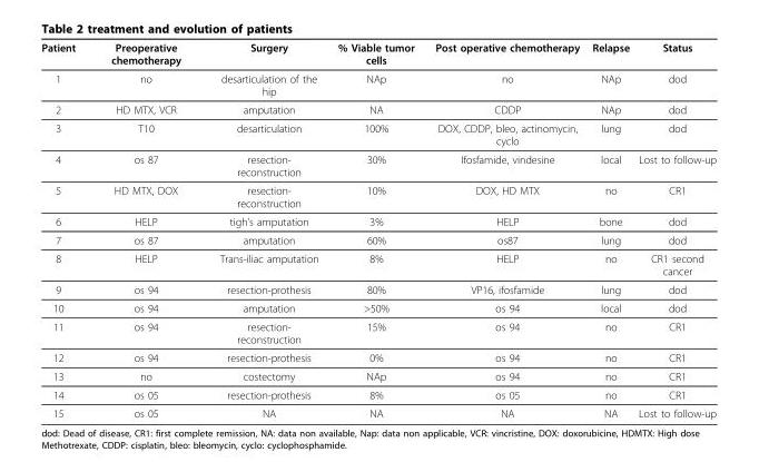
<table><thead><tr><td>Patient</td><td>Preoperative chemotherapy</td><td>Surgery</td><td>% Viable tumor cells</td><td>Post operative chemotherapy</td><td>Relapse</td><td>Status</td></tr></thead><tbody><tr><td>1</td><td>no</td><td>desarticulation of the hip</td><td>NAp</td><td>no</td><td>NAp</td><td>dod</td></tr><tr><td>2</td><td>HD MTX, VCR</td><td>amputation</td><td>NA</td><td>CDDP</td><td>NAp</td><td>dod</td></tr><tr><td>3</td><td>T10</td><td>desarticulation</td><td>100%</td><td>DOX, CDDP, bleo, actinomycin, cyclo</td><td>lung</td><td>dod</td></tr><tr><td>4</td><td>os 87</td><td>resection- reconstruction</td><td>30%</td><td>Ifosfamide, vindesine</td><td>local</td><td>Lost to follow-up</td></tr><tr><td>5</td><td>HD MTX, DOX</td><td>resection- reconstruction</td><td>10%</td><td>DOX, HD MTX</td><td>no</td><td>CR1</td></tr><tr><td>6</td><td>HELP</td><td>tigh’s amputation</td><td>3%</td><td>HELP</td><td>bone</td><td>dod</td></tr><tr><td>7</td><td>os 87</td><td>amputation</td><td>60%</td><td>os87</td><td>lung</td><td>dod</td></tr><tr><td>8</td><td>HELP</td><td>Trans-iliac amputation</td><td>8%</td><td>HELP</td><td>no</td><td>CR1 second cancer</td></tr><tr><td>9</td><td>os 94</td><td>resection-prothesis</td><td>80%</td><td>VP16, ifosfamide</td><td>lung</td><td>dod</td></tr><tr><td>10</td><td>os 94</td><td>amputation</td><td>&gt;50%</td><td>os 94</td><td>local</td><td>dod</td></tr><tr><td>11</td><td>os 94</td><td>resection- reconstruction</td><td>15%</td><td>os 94</td><td>no</td><td>CR1</td></tr><tr><td>12</td><td>os 94</td><td>resection-prothesis</td><td>0%</td><td>os 94</td><td>no</td><td>CR1</td></tr><tr><td>13</td><td>no</td><td>costectomy</td><td>NAp</td><td>os 94</td><td>no</td><td>CR1</td></tr><tr><td>14</td><td>os 05</td><td>resection-prothesis</td><td>8%</td><td>os 05</td><td>no</td><td>CR1</td></tr><tr><td>15</td><td>os 05</td><td>NA</td><td>NA</td><td>NA</td><td>NA</td><td>Lost to follow-up</td></tr></tbody></table>